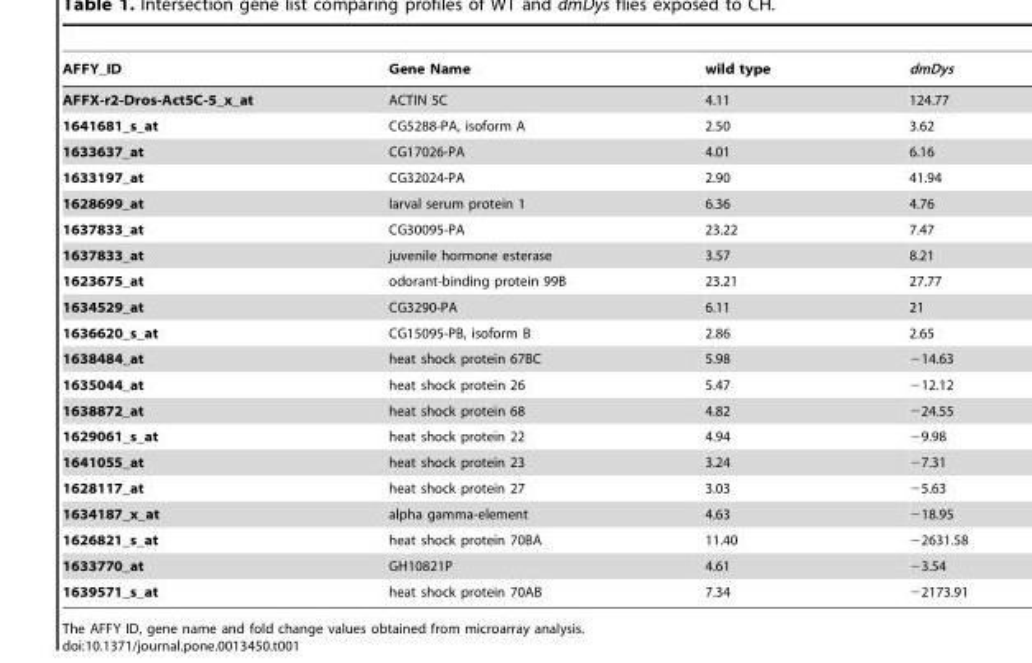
<table><thead><tr><td>AFFY_ID</td><td>Gene Name</td><td>wild type</td><td>dmDys</td></tr></thead><tbody><tr><td>AFFX-r2-Dros-Act5C-5_x_at</td><td>ACTIN 5C</td><td>4.11</td><td>124.77</td></tr><tr><td>1641681_s_at</td><td>CG5288-PA, isoform A</td><td>2.50</td><td>3.62</td></tr><tr><td>1633637_at</td><td>CG17026-PA</td><td>4.01</td><td>6.16</td></tr><tr><td>1633197_at</td><td>CG32024-PA</td><td>2.90</td><td>41.94</td></tr><tr><td>1628699_at</td><td>larval serum protein 1</td><td>6.36</td><td>4.76</td></tr><tr><td>1637833_at</td><td>CG30095-PA</td><td>23.22</td><td>7.47</td></tr><tr><td>1637833_at</td><td>juvenile hormone esterase</td><td>3.57</td><td>8.21</td></tr><tr><td>1623675_at</td><td>odorant-binding protein 99B</td><td>23.21</td><td>27.77</td></tr><tr><td>1634529_at</td><td>CG3290-PA</td><td>6.11</td><td>21</td></tr><tr><td>1636620_s_at</td><td>CG15095-PB, isoform B</td><td>2.86</td><td>2.65</td></tr><tr><td>1638484_at</td><td>heat shock protein 67BC</td><td>5.98</td><td>−14.63</td></tr><tr><td>1635044_at</td><td>heat shock protein 26</td><td>5.47</td><td>−12.12</td></tr><tr><td>1638872_at</td><td>heat shock protein 68</td><td>4.82</td><td>−24.55</td></tr><tr><td>1629061_s_at</td><td>heat shock protein 22</td><td>4.94</td><td>−9.98</td></tr><tr><td>1641055_at</td><td>heat shock protein 23</td><td>3.24</td><td>−7.31</td></tr><tr><td>1628117_at</td><td>heat shock protein 27</td><td>3.03</td><td>−5.63</td></tr><tr><td>1634187_x_at</td><td>alpha gamma-element</td><td>4.63</td><td>−18.95</td></tr><tr><td>1626821_s_at</td><td>heat shock protein 70BA</td><td>11.40</td><td>−2631.58</td></tr><tr><td>1633770_at</td><td>GH10821P</td><td>4.61</td><td>−3.54</td></tr><tr><td>1639571_s_at</td><td>heat shock protein 70AB</td><td>7.34</td><td>−2173.91</td></tr></tbody></table>